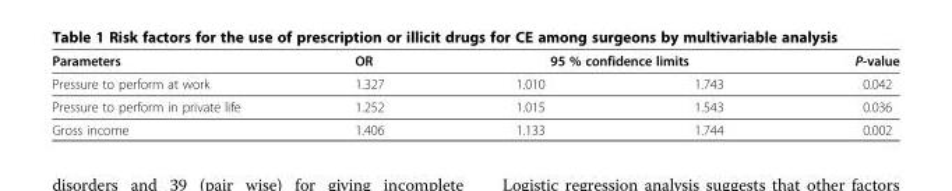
<table><thead><tr><td rowspan="2">Parameters Pressure to perform at work</td><td rowspan="2">OR 1.327</td><td colspan="2">95 % confidence limits</td><td rowspan="2">P-value 0.042</td></tr><tr><td>1.010</td><td>1.743</td></tr></thead><tbody><tr><td>Pressure to perform in private life</td><td>1.252</td><td>1.015</td><td>1.543</td><td>0.036</td></tr><tr><td>Gross income</td><td>1.406</td><td>1.133</td><td>1.744</td><td>0.002</td></tr></tbody></table>